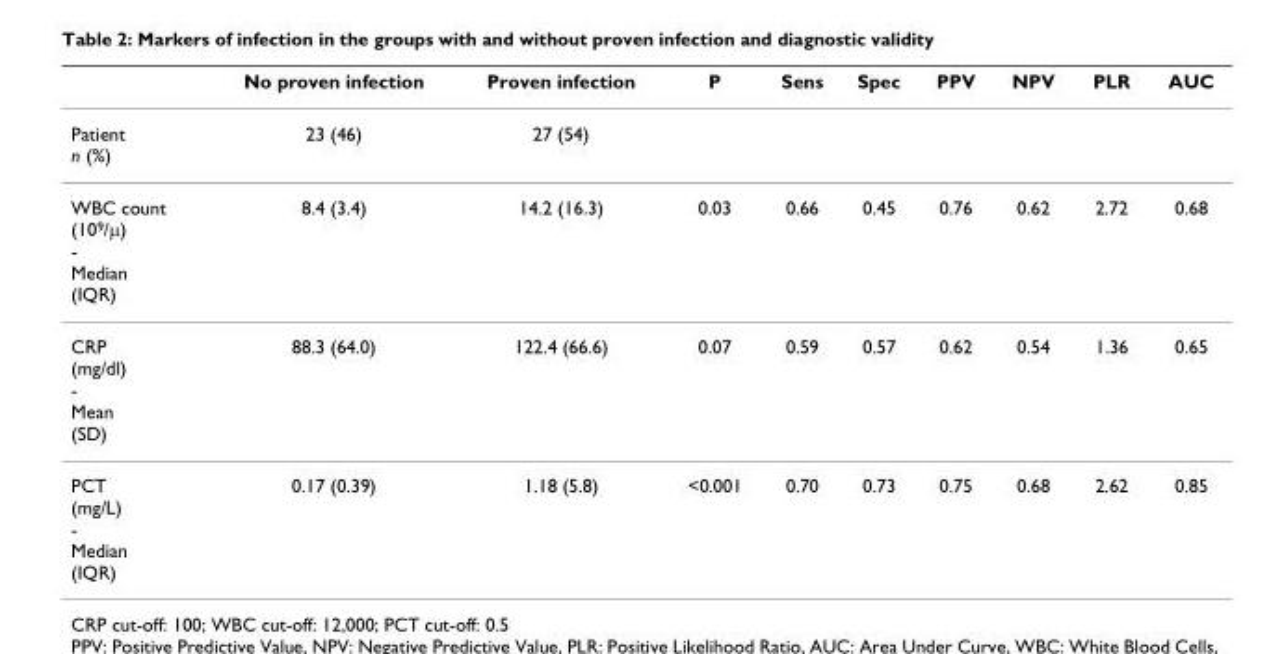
<table><thead><tr><td></td><td>No proven infection</td><td>Proven infection</td><td>P</td><td>Sens</td><td>Spec</td><td>PPV</td><td>NPV</td><td>PLR</td><td>AUC</td></tr></thead><tbody><tr><td>Patient n (%)</td><td>23 (46)</td><td>27 (54)</td><td></td><td></td><td></td><td></td><td></td><td></td><td></td></tr><tr><td>WBC count (10<sup>9</sup>/μ) - Median (IQR)</td><td>8.4 (3.4)</td><td>14.2 (16.3)</td><td>0.03</td><td>0.66</td><td>0.45</td><td>0.76</td><td>0.62</td><td>2.72</td><td>0.68</td></tr><tr><td>CRP (mg/dl) - Mean (SD)</td><td>88.3 (64.0)</td><td>122.4 (66.6)</td><td>0.07</td><td>0.59</td><td>0.57</td><td>0.62</td><td>0.54</td><td>1.36</td><td>0.65</td></tr><tr><td>PCT (mg/L) - Median (IQR)</td><td>0.17 (0.39)</td><td>1.18 (5.8)</td><td>&lt;0.001</td><td>0.70</td><td>0.73</td><td>0.75</td><td>0.68</td><td>2.62</td><td>0.85</td></tr></tbody></table>